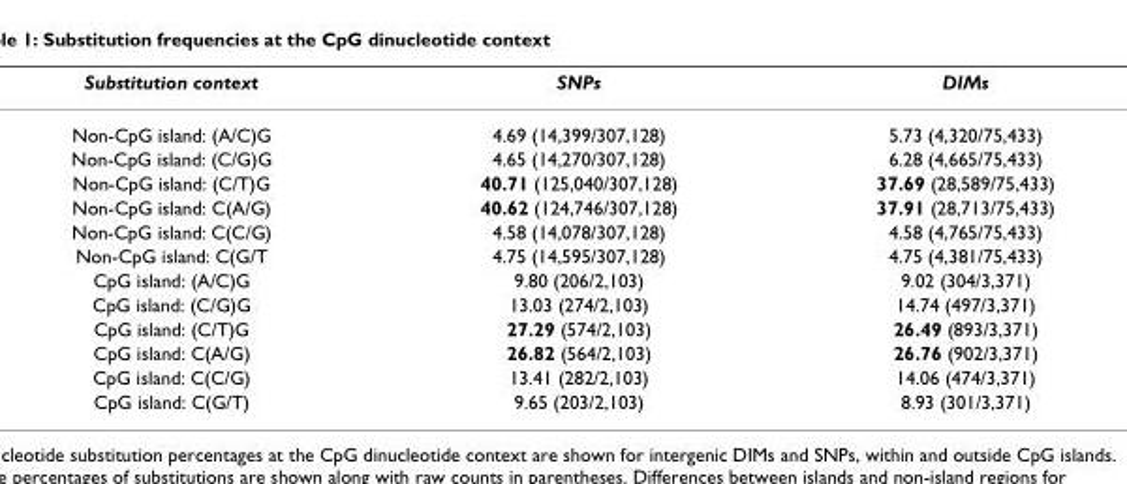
<table><thead><tr><td>Substitution context</td><td>SNPs</td><td>DIMs</td></tr></thead><tbody><tr><td>Non-CpG island: (A/C)G</td><td>4.69 (14,399/307,128)</td><td>5.73 (4,320/75,433)</td></tr><tr><td>Non-CpG island: (C/G)G</td><td>4.65 (14,270/307,128)</td><td>6.28 (4,665/75,433)</td></tr><tr><td>Non-CpG island: (C/T)G</td><td>40.71 (125,040/307,128)</td><td>37.69 (28,589/75,433)</td></tr><tr><td>Non-CpG island: C(A/G)</td><td>40.62 (124,746/307,128)</td><td>37.91 (28,713/75,433)</td></tr><tr><td>Non-CpG island: C(C/G)</td><td>4.58 (14,078/307,128)</td><td>4.58 (4,765/75,433)</td></tr><tr><td>Non-CpG island: C(G/T</td><td>4.75 (14,595/307,128)</td><td>4.75 (4,381/75,433)</td></tr><tr><td>CpG island: (A/C)G</td><td>9.80 (206/2,103)</td><td>9.02 (304/3,371)</td></tr><tr><td>CpG island: (C/G)G</td><td>13.03 (274/2,103)</td><td>14.74 (497/3,371)</td></tr><tr><td>CpG island: (C/T)G</td><td>27.29 (574/2,103)</td><td>26.49 (893/3,371)</td></tr><tr><td>CpG island: C(A/G)</td><td>26.82 (564/2,103)</td><td>26.76 (902/3,371)</td></tr><tr><td>CpG island: C(C/G)</td><td>13.41 (282/2,103)</td><td>14.06 (474/3,371)</td></tr><tr><td>CpG island: C(G/T)</td><td>9.65 (203/2,103)</td><td>8.93 (301/3,371)</td></tr></tbody></table>